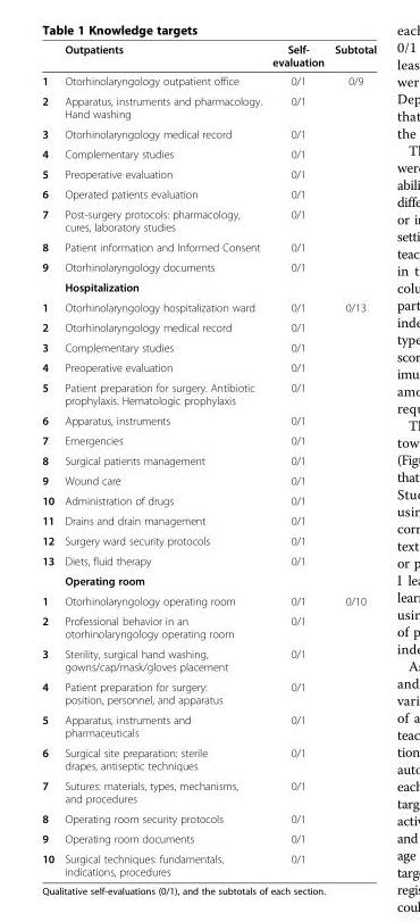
<table><thead><tr><td></td><td>Outpatients</td><td>Self- evaluation</td><td>Subtotal</td></tr></thead><tbody><tr><td>1</td><td>Otorhinolaryngology outpatient office</td><td>0/1</td><td rowspan="9">0/9</td></tr><tr><td>2</td><td>Apparatus, instruments and pharmacology. Hand washing</td><td>0/1</td></tr><tr><td>3</td><td>Otorhinolaryngology medical record</td><td>0/1</td></tr><tr><td>4</td><td>Complementary studies</td><td>0/1</td></tr><tr><td>5</td><td>Preoperative evaluation</td><td>0/1</td></tr><tr><td>6</td><td>Operated patients evaluation</td><td>0/1</td></tr><tr><td>7</td><td>Post-surgery protocols: pharmacology, cures, laboratory studies</td><td>0/1</td></tr><tr><td>8</td><td>Patient information and Informed Consent</td><td>0/1</td></tr><tr><td rowspan="2">9</td><td>Otorhinolaryngology documents</td><td>0/1</td></tr><tr><td>Hospitalization</td><td></td><td></td></tr><tr><td>1</td><td>Otorhinolaryngology hospitalization ward</td><td>0/1</td><td rowspan="13">0/13</td></tr><tr><td>2</td><td>Otorhinolaryngology medical record</td><td>0/1</td></tr><tr><td>3</td><td>Complementary studies</td><td>0/1</td></tr><tr><td>4</td><td>Preoperative evaluation</td><td>0/1</td></tr><tr><td>5</td><td>Patient preparation for surgery. Antibiotic prophylaxis. Hematologic prophylaxis</td><td>0/1</td></tr><tr><td>6</td><td>Apparatus, instruments</td><td>0/1</td></tr><tr><td>7</td><td>Emergencies</td><td>0/1</td></tr><tr><td>8</td><td>Surgical patients management</td><td>0/1</td></tr><tr><td>9</td><td>Wound care</td><td>0/1</td></tr><tr><td>10</td><td>Administration of drugs</td><td>0/1</td></tr><tr><td>11</td><td>Drains and drain management</td><td>0/1</td></tr><tr><td>12</td><td>Surgery ward security protocols</td><td>0/1</td></tr><tr><td rowspan="2">13</td><td>Diets, fluid therapy</td><td>0/1</td></tr><tr><td>Operating room</td><td></td><td></td></tr><tr><td>1</td><td>Otorhinolaryngology operating room</td><td>0/1</td><td rowspan="10">0/10</td></tr><tr><td>2</td><td>Professional behavior in an otorhinolaryngology operating room</td><td>0/1</td></tr><tr><td>3</td><td>Sterility, surgical hand washing, gowns/cap/mask/gloves placement</td><td>0/1</td></tr><tr><td>4</td><td>Patient preparation for surgery: position, personnel, and apparatus</td><td>0/1</td></tr><tr><td>5</td><td>Apparatus, instruments and pharmaceuticals</td><td>0/1</td></tr><tr><td>6</td><td>Surgical site preparation: sterile drapes, antiseptic techniques</td><td>0/1</td></tr><tr><td>7</td><td>Sutures: materials, types, mechanisms, and procedures</td><td>0/1</td></tr><tr><td>8</td><td>Operating room security protocols</td><td>0/1</td></tr><tr><td>9</td><td>Operating room documents</td><td>0/1</td></tr><tr><td>10</td><td>Surgical techniques: fundamentals, indications, procedures</td><td>0/1</td></tr></tbody></table>